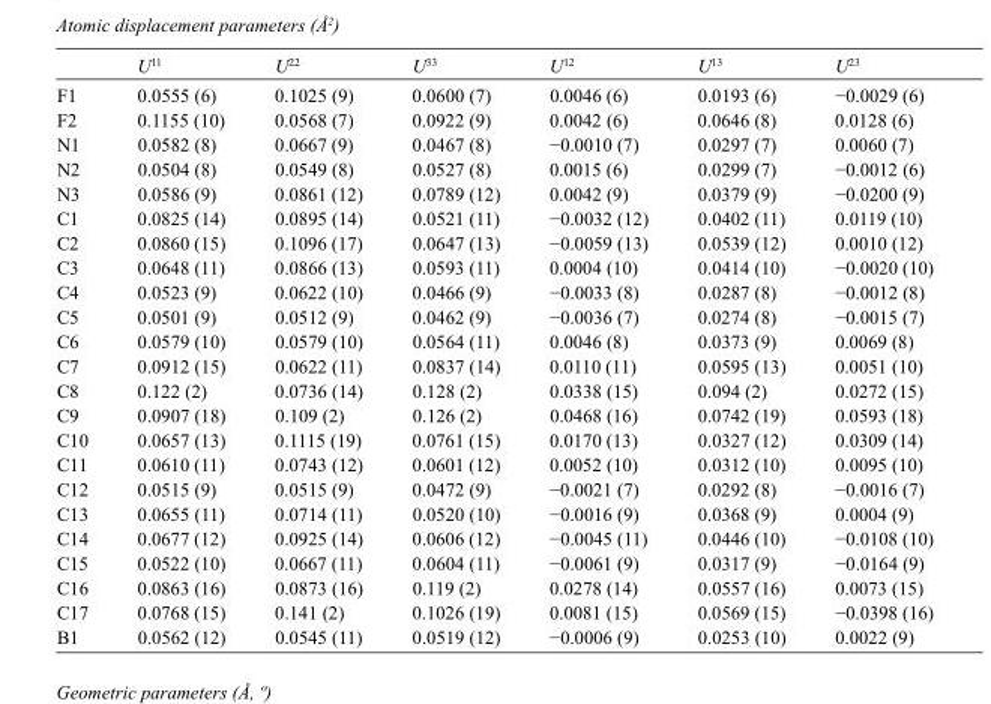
<table><thead><tr><td></td><td>U<sup>11</sup></td><td>U<sup>22</sup></td><td>U<sup>33</sup></td><td>U<sup>12</sup></td><td>U<sup>13</sup></td><td>U<sup>23</sup></td></tr></thead><tbody><tr><td>F1</td><td>0.0555 (6)</td><td>0.1025 (9)</td><td>0.0600 (7)</td><td>0.0046 (6)</td><td>0.0193 (6)</td><td>−0.0029 (6)</td></tr><tr><td>F2</td><td>0.1155 (10)</td><td>0.0568 (7)</td><td>0.0922 (9)</td><td>0.0042 (6)</td><td>0.0646 (8)</td><td>0.0128 (6)</td></tr><tr><td>N1</td><td>0.0582 (8)</td><td>0.0667 (9)</td><td>0.0467 (8)</td><td>−0.0010 (7)</td><td>0.0297 (7)</td><td>0.0060 (7)</td></tr><tr><td>N2</td><td>0.0504 (8)</td><td>0.0549 (8)</td><td>0.0527 (8)</td><td>0.0015 (6)</td><td>0.0299 (7)</td><td>−0.0012 (6)</td></tr><tr><td>N3</td><td>0.0586 (9)</td><td>0.0861 (12)</td><td>0.0789 (12)</td><td>0.0042 (9)</td><td>0.0379 (9)</td><td>−0.0200 (9)</td></tr><tr><td>C1</td><td>0.0825 (14)</td><td>0.0895 (14)</td><td>0.0521 (11)</td><td>−0.0032 (12)</td><td>0.0402 (11)</td><td>0.0119 (10)</td></tr><tr><td>C2</td><td>0.0860 (15)</td><td>0.1096 (17)</td><td>0.0647 (13)</td><td>−0.0059 (13)</td><td>0.0539 (12)</td><td>0.0010 (12)</td></tr><tr><td>C3</td><td>0.0648 (11)</td><td>0.0866 (13)</td><td>0.0593 (11)</td><td>0.0004 (10)</td><td>0.0414 (10)</td><td>−0.0020 (10)</td></tr><tr><td>C4</td><td>0.0523 (9)</td><td>0.0622 (10)</td><td>0.0466 (9)</td><td>−0.0033 (8)</td><td>0.0287 (8)</td><td>−0.0012 (8)</td></tr><tr><td>C5</td><td>0.0501 (9)</td><td>0.0512 (9)</td><td>0.0462 (9)</td><td>−0.0036 (7)</td><td>0.0274 (8)</td><td>−0.0015 (7)</td></tr><tr><td>C6</td><td>0.0579 (10)</td><td>0.0579 (10)</td><td>0.0564 (11)</td><td>0.0046 (8)</td><td>0.0373 (9)</td><td>0.0069 (8)</td></tr><tr><td>C7</td><td>0.0912 (15)</td><td>0.0622 (11)</td><td>0.0837 (14)</td><td>0.0110 (11)</td><td>0.0595 (13)</td><td>0.0051 (10)</td></tr><tr><td>C8</td><td>0.122 (2)</td><td>0.0736 (14)</td><td>0.128 (2)</td><td>0.0338 (15)</td><td>0.094 (2)</td><td>0.0272 (15)</td></tr><tr><td>C9</td><td>0.0907 (18)</td><td>0.109 (2)</td><td>0.126 (2)</td><td>0.0468 (16)</td><td>0.0742 (19)</td><td>0.0593 (18)</td></tr><tr><td>C10</td><td>0.0657 (13)</td><td>0.1115 (19)</td><td>0.0761 (15)</td><td>0.0170 (13)</td><td>0.0327 (12)</td><td>0.0309 (14)</td></tr><tr><td>C11</td><td>0.0610 (11)</td><td>0.0743 (12)</td><td>0.0601 (12)</td><td>0.0052 (10)</td><td>0.0312 (10)</td><td>0.0095 (10)</td></tr><tr><td>C12</td><td>0.0515 (9)</td><td>0.0515 (9)</td><td>0.0472 (9)</td><td>−0.0021 (7)</td><td>0.0292 (8)</td><td>−0.0016 (7)</td></tr><tr><td>C13</td><td>0.0655 (11)</td><td>0.0714 (11)</td><td>0.0520 (10)</td><td>−0.0016 (9)</td><td>0.0368 (9)</td><td>0.0004 (9)</td></tr><tr><td>C14</td><td>0.0677 (12)</td><td>0.0925 (14)</td><td>0.0606 (12)</td><td>−0.0045 (11)</td><td>0.0446 (10)</td><td>−0.0108 (10)</td></tr><tr><td>C15</td><td>0.0522 (10)</td><td>0.0667 (11)</td><td>0.0604 (11)</td><td>−0.0061 (9)</td><td>0.0317 (9)</td><td>−0.0164 (9)</td></tr><tr><td>C16</td><td>0.0863 (16)</td><td>0.0873 (16)</td><td>0.119 (2)</td><td>0.0278 (14)</td><td>0.0557 (16)</td><td>0.0073 (15)</td></tr><tr><td>C17</td><td>0.0768 (15)</td><td>0.141 (2)</td><td>0.1026 (19)</td><td>0.0081 (15)</td><td>0.0569 (15)</td><td>−0.0398 (16)</td></tr><tr><td>B1</td><td>0.0562 (12)</td><td>0.0545 (11)</td><td>0.0519 (12)</td><td>−0.0006 (9)</td><td>0.0253 (10)</td><td>0.0022 (9)</td></tr></tbody></table>